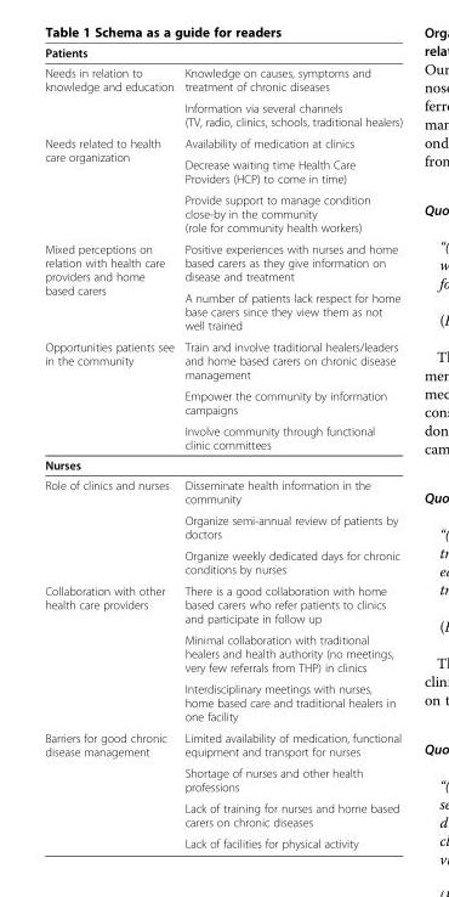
<table><tbody><tr><td colspan="2">Patients</td></tr><tr><td rowspan="2">Needs in relation to knowledge and education</td><td>Knowledge on causes, symptoms and treatment of chronic diseases</td></tr><tr><td>Information via several channels (TV, radio, clinics, schools, traditional healers)</td></tr><tr><td rowspan="3">Needs related to health care organization</td><td>Availability of medication at clinics</td></tr><tr><td>Decrease waiting time Health Care Providers (HCP) to come in time)</td></tr><tr><td>Provide support to manage condition close-by in the community (role for community health workers)</td></tr><tr><td rowspan="2">Mixed perceptions on relation with health care providers and home based carers</td><td>Positive experiences with nurses and home based carers as they give information on disease and treatment</td></tr><tr><td>A number of patients lack respect for home base carers since they view them as not well trained</td></tr><tr><td rowspan="3">Opportunities patients see in the community</td><td>Train and involve traditional healers/leaders and home based carers on chronic disease management</td></tr><tr><td>Empower the community by information campaigns</td></tr><tr><td>Involve community through functional clinic committees</td></tr><tr><td colspan="2">Nurses</td></tr><tr><td rowspan="3">Role of clinics and nurses</td><td>Disseminate health information in the community</td></tr><tr><td>Organize semi-annual review of patients by doctors</td></tr><tr><td>Organize weekly dedicated days for chronic conditions by nurses</td></tr><tr><td rowspan="3">Collaboration with other health care providers</td><td>There is a good collaboration with home based carers who refer patients to clinics and participate in follow up</td></tr><tr><td>Minimal collaboration with traditional healers and health authority (no meetings, very few referrals from THP) in clinics</td></tr><tr><td>Interdisciplinary meetings with nurses, home based care and traditional healers in one facility</td></tr><tr><td rowspan="4">Barriers for good chronic disease management</td><td>Limited availability of medication, functional equipment and transport for nurses</td></tr><tr><td>Shortage of nurses and other health professions</td></tr><tr><td>Lack of training for nurses and home based carers on chronic diseases</td></tr><tr><td>Lack of facilities for physical activity</td></tr></tbody></table>